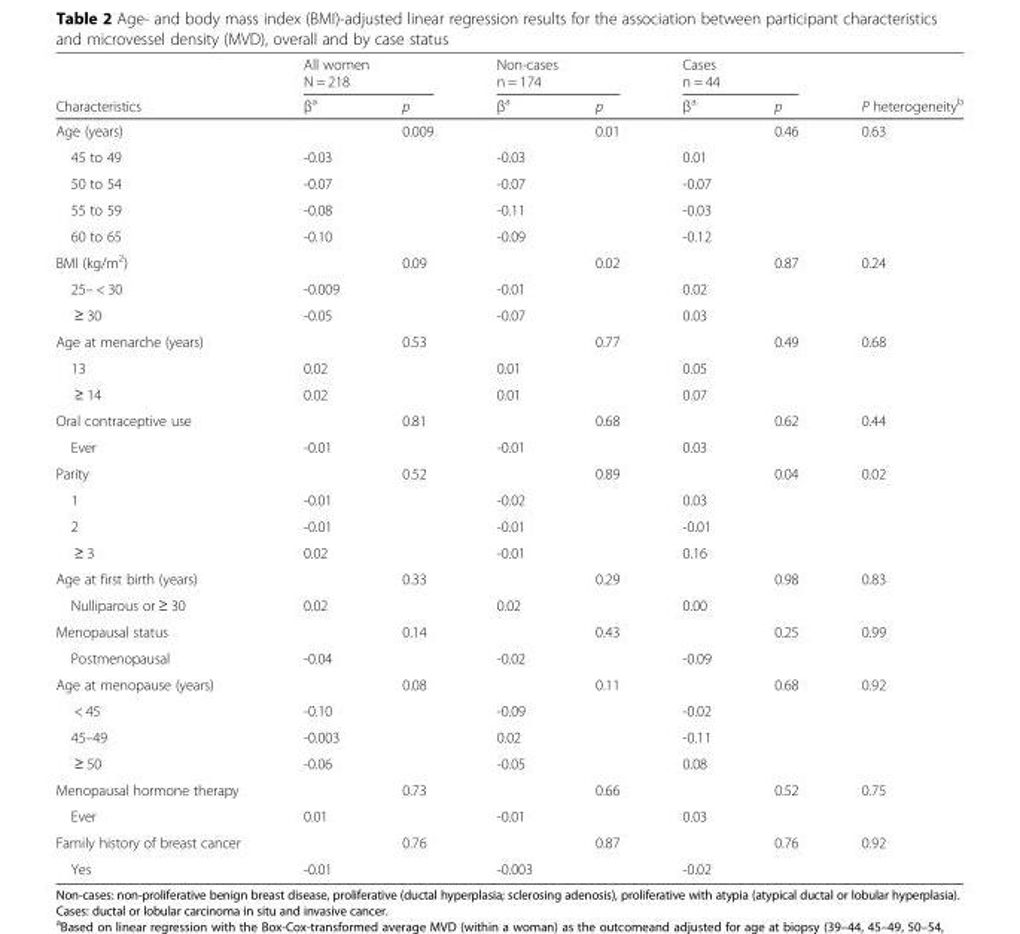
<table><thead><tr><td rowspan="3">Characteristics</td><td rowspan="2" colspan="2">All women N = 218</td><td rowspan="2" colspan="2">Non-cases n = 174</td><td rowspan="2" colspan="2">Cases n = 44</td><td rowspan="3">P heterogeneity<sup>b</sup></td></tr><tr></tr><tr><td>β<sup>a</sup></td><td>p</td><td>β<sup>a</sup></td><td>p</td><td>β<sup>a</sup></td><td>p</td></tr></thead><tbody><tr><td>Age (years)</td><td></td><td>0.009</td><td></td><td>0.01</td><td></td><td>0.46</td><td>0.63</td></tr><tr><td>45 to 49</td><td>-0.03</td><td></td><td>-0.03</td><td></td><td>0.01</td><td></td><td></td></tr><tr><td>50 to 54</td><td>-0.07</td><td></td><td>-0.07</td><td></td><td>-0.07</td><td></td><td></td></tr><tr><td>55 to 59</td><td>-0.08</td><td></td><td>-0.11</td><td></td><td>-0.03</td><td></td><td></td></tr><tr><td>60 to 65</td><td>-0.10</td><td></td><td>-0.09</td><td></td><td>-0.12</td><td></td><td></td></tr><tr><td>BMI (kg/m<sup>2</sup>)</td><td></td><td>0.09</td><td></td><td>0.02</td><td></td><td>0.87</td><td>0.24</td></tr><tr><td>25– &lt; 30</td><td>-0.009</td><td></td><td>-0.01</td><td></td><td>0.02</td><td></td><td></td></tr><tr><td>≥ 30</td><td>-0.05</td><td></td><td>-0.07</td><td></td><td>0.03</td><td></td><td></td></tr><tr><td>Age at menarche (years)</td><td></td><td>0.53</td><td></td><td>0.77</td><td></td><td>0.49</td><td>0.68</td></tr><tr><td>13</td><td>0.02</td><td></td><td>0.01</td><td></td><td>0.05</td><td></td><td></td></tr><tr><td>≥ 14</td><td>0.02</td><td></td><td>0.01</td><td></td><td>0.07</td><td></td><td></td></tr><tr><td>Oral contraceptive use</td><td></td><td>0.81</td><td></td><td>0.68</td><td></td><td>0.62</td><td>0.44</td></tr><tr><td>Ever</td><td>-0.01</td><td></td><td>-0.01</td><td></td><td>0.03</td><td></td><td></td></tr><tr><td>Parity</td><td></td><td>0.52</td><td></td><td>0.89</td><td></td><td>0.04</td><td>0.02</td></tr><tr><td>1</td><td>-0.01</td><td></td><td>-0.02</td><td></td><td>0.03</td><td></td><td></td></tr><tr><td>2</td><td>-0.01</td><td></td><td>-0.01</td><td></td><td>-0.01</td><td></td><td></td></tr><tr><td>≥ 3</td><td>0.02</td><td></td><td>-0.01</td><td></td><td>0.16</td><td></td><td></td></tr><tr><td>Age at first birth (years)</td><td></td><td>0.33</td><td></td><td>0.29</td><td></td><td>0.98</td><td>0.83</td></tr><tr><td>Nulliparous or ≥ 30</td><td>0.02</td><td></td><td>0.02</td><td></td><td>0.00</td><td></td><td></td></tr><tr><td>Menopausal status</td><td></td><td>0.14</td><td></td><td>0.43</td><td></td><td>0.25</td><td>0.99</td></tr><tr><td>Postmenopausal</td><td>-0.04</td><td></td><td>-0.02</td><td></td><td>-0.09</td><td></td><td></td></tr><tr><td>Age at menopause (years)</td><td></td><td>0.08</td><td></td><td>0.11</td><td></td><td>0.68</td><td>0.92</td></tr><tr><td>&lt; 45</td><td>-0.10</td><td></td><td>-0.09</td><td></td><td>-0.02</td><td></td><td></td></tr><tr><td>45–49</td><td>-0.003</td><td></td><td>0.02</td><td></td><td>-0.11</td><td></td><td></td></tr><tr><td>≥ 50</td><td>-0.06</td><td></td><td>-0.05</td><td></td><td>0.08</td><td></td><td></td></tr><tr><td>Menopausal hormone therapy</td><td></td><td>0.73</td><td></td><td>0.66</td><td></td><td>0.52</td><td>0.75</td></tr><tr><td>Ever</td><td>0.01</td><td></td><td>-0.01</td><td></td><td>0.03</td><td></td><td></td></tr><tr><td>Family history of breast cancer</td><td></td><td>0.76</td><td></td><td>0.87</td><td></td><td>0.76</td><td>0.92</td></tr><tr><td>Yes</td><td>-0.01</td><td></td><td>-0.003</td><td></td><td>-0.02</td><td></td><td></td></tr></tbody></table>